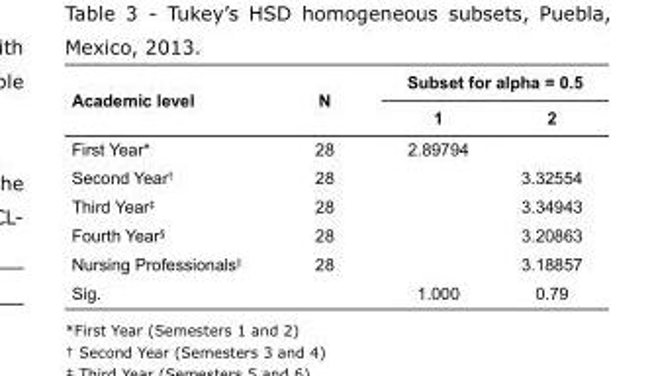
<table><thead><tr><td rowspan="2">Academic level</td><td rowspan="2">N</td><td colspan="2">Subset for alpha = 0.5</td></tr><tr><td>1</td><td>2</td></tr></thead><tbody><tr><td>First Year*</td><td>28</td><td>2.89794</td><td></td></tr><tr><td>Second Year<sup>†</sup></td><td>28</td><td></td><td>3.32554</td></tr><tr><td>Third Year<sup>‡</sup></td><td>28</td><td></td><td>3.34943</td></tr><tr><td>Fourth Year<sup>§</sup></td><td>28</td><td></td><td>3.20863</td></tr><tr><td>Nursing Professionals<sup>||</sup></td><td>28</td><td></td><td>3.18857</td></tr><tr><td>Sig.</td><td></td><td>1.000</td><td>0.79</td></tr></tbody></table>